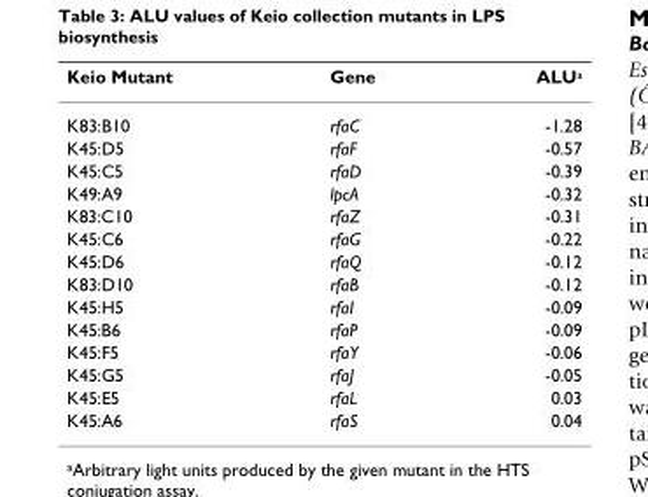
<table><thead><tr><td>Keio Mutant</td><td>Gene</td><td>ALU<sup>a</sup></td></tr></thead><tbody><tr><td>K83:B10</td><td>rfaC</td><td>-1.28</td></tr><tr><td>K45:D5</td><td>rfaF</td><td>-0.57</td></tr><tr><td>K45:C5</td><td>rfaD</td><td>-0.39</td></tr><tr><td>K49:A9</td><td>lpcA</td><td>-0.32</td></tr><tr><td>K83:C10</td><td>rfaZ</td><td>-0.31</td></tr><tr><td>K45:C6</td><td>rfaG</td><td>-0.22</td></tr><tr><td>K45:D6</td><td>rfaQ</td><td>-0.12</td></tr><tr><td>K83:D10</td><td>rfaB</td><td>-0.12</td></tr><tr><td>K45:H5</td><td>rfaI</td><td>-0.09</td></tr><tr><td>K45:B6</td><td>rfaP</td><td>-0.09</td></tr><tr><td>K45:F5</td><td>rfaY</td><td>-0.06</td></tr><tr><td>K45:G5</td><td>rfaJ</td><td>-0.05</td></tr><tr><td>K45:E5</td><td>rfaL</td><td>0.03</td></tr><tr><td>K45:A6</td><td>rfaS</td><td>0.04</td></tr></tbody></table>